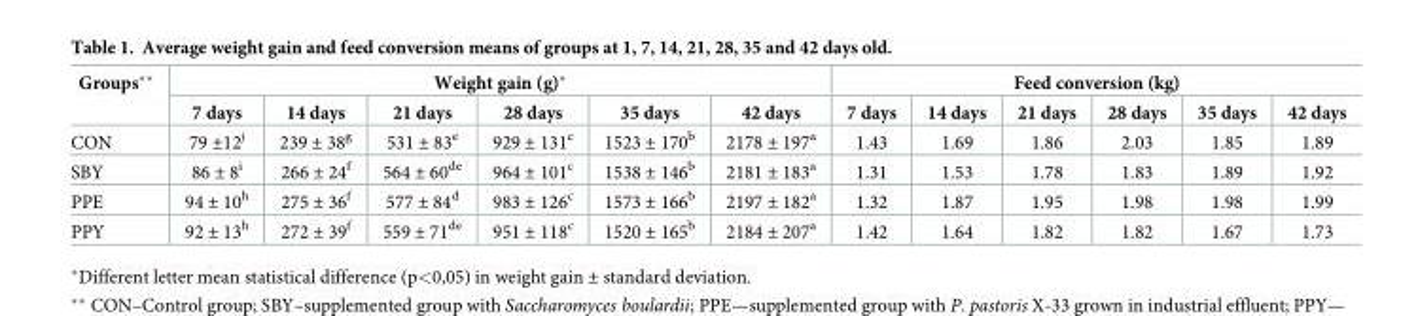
<table><thead><tr><td rowspan="2">Groups**</td><td colspan="6">Weight gain (g)*</td><td colspan="6">Feed conversion (kg)</td></tr><tr><td>7 days</td><td>14 days</td><td>21 days</td><td>28 days</td><td>35 days</td><td>42 days</td><td>7 days</td><td>14 days</td><td>21 days</td><td>28 days</td><td>35 days</td><td>42 days</td></tr></thead><tbody><tr><td>CON</td><td>79 ±12<sup>j</sup></td><td>239 ± 38<sup>g</sup></td><td>531 ± 83<sup>e</sup></td><td>929 ± 131<sup>c</sup></td><td>1523 ± 170<sup>b</sup></td><td>2178 ± 197<sup>a</sup></td><td>1.43</td><td>1.69</td><td>1.86</td><td>2.03</td><td>1.85</td><td>1.89</td></tr><tr><td>SBY</td><td>86 ± 8<sup>i</sup></td><td>266 ± 24<sup>f</sup></td><td>564 ± 60<sup>de</sup></td><td>964 ± 101<sup>c</sup></td><td>1538 ± 146<sup>b</sup></td><td>2181 ± 183<sup>a</sup></td><td>1.31</td><td>1.53</td><td>1.78</td><td>1.83</td><td>1.89</td><td>1.92</td></tr><tr><td>PPE</td><td>94 ± 10<sup>h</sup></td><td>275 ± 36<sup>f</sup></td><td>577 ± 84<sup>d</sup></td><td>983 ± 126<sup>c</sup></td><td>1573 ± 166<sup>b</sup></td><td>2197 ± 182<sup>a</sup></td><td>1.32</td><td>1.87</td><td>1.95</td><td>1.98</td><td>1.98</td><td>1.99</td></tr><tr><td>PPY</td><td>92 ± 13<sup>h</sup></td><td>272 ± 39<sup>f</sup></td><td>559 ± 71<sup>de</sup></td><td>951 ± 118<sup>c</sup></td><td>1520 ± 165<sup>b</sup></td><td>2184 ± 207<sup>a</sup></td><td>1.42</td><td>1.64</td><td>1.82</td><td>1.82</td><td>1.67</td><td>1.73</td></tr></tbody></table>